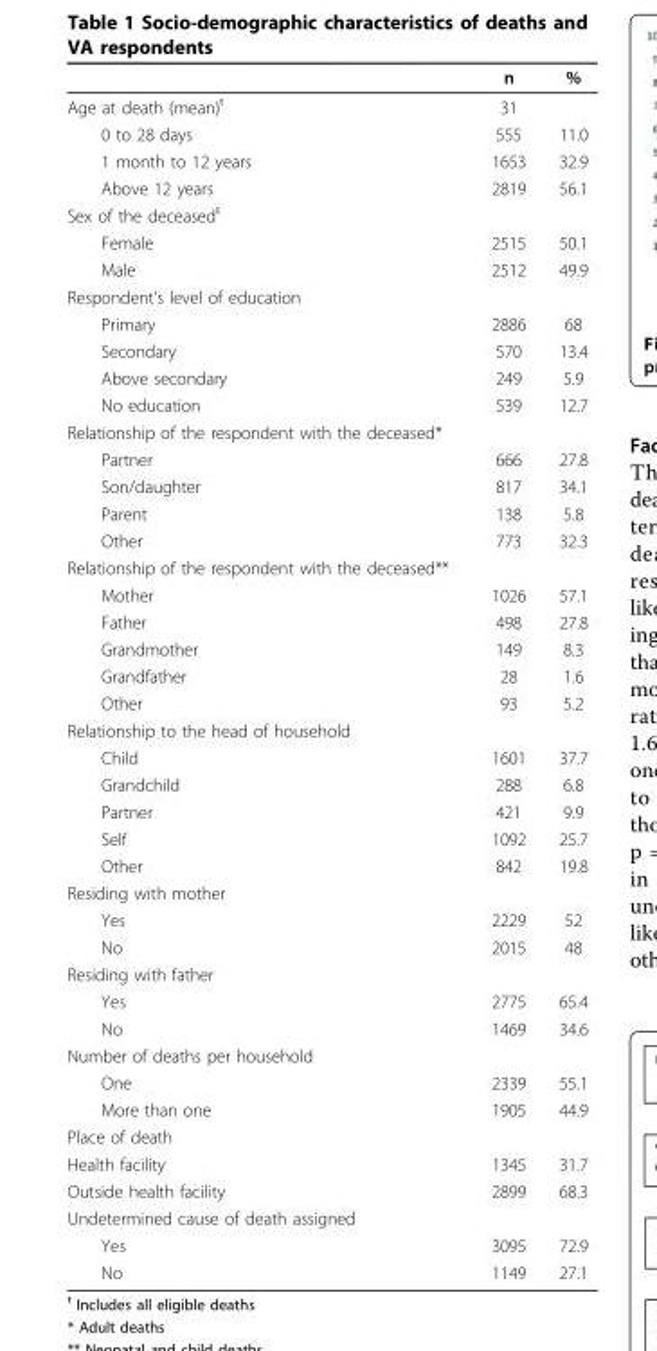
<table><thead><tr><td></td><td>n</td><td>%</td></tr></thead><tbody><tr><td>Age at death (mean)<sup>ŧ</sup></td><td>31</td><td></td></tr><tr><td>0 to 28 days</td><td>555</td><td>11.0</td></tr><tr><td>1 month to 12 years</td><td>1653</td><td>32.9</td></tr><tr><td>Above 12 years</td><td>2819</td><td>56.1</td></tr><tr><td colspan="3">Sex of the deceased<sup>ŧ</sup></td></tr><tr><td>Female</td><td>2515</td><td>50.1</td></tr><tr><td>Male</td><td>2512</td><td>49.9</td></tr><tr><td colspan="3">Respondent’s level of education</td></tr><tr><td>Primary</td><td>2886</td><td>68</td></tr><tr><td>Secondary</td><td>570</td><td>13.4</td></tr><tr><td>Above secondary</td><td>249</td><td>5.9</td></tr><tr><td>No education</td><td>539</td><td>12.7</td></tr><tr><td colspan="3">Relationship of the respondent with the deceased*</td></tr><tr><td>Partner</td><td>666</td><td>27.8</td></tr><tr><td>Son/daughter</td><td>817</td><td>34.1</td></tr><tr><td>Parent</td><td>138</td><td>5.8</td></tr><tr><td>Other</td><td>773</td><td>32.3</td></tr><tr><td colspan="3">Relationship of the respondent with the deceased**</td></tr><tr><td>Mother</td><td>1026</td><td>57.1</td></tr><tr><td>Father</td><td>498</td><td>27.8</td></tr><tr><td>Grandmother</td><td>149</td><td>8.3</td></tr><tr><td>Grandfather</td><td>28</td><td>1.6</td></tr><tr><td>Other</td><td>93</td><td>5.2</td></tr><tr><td colspan="3">Relationship to the head of household</td></tr><tr><td>Child</td><td>1601</td><td>37.7</td></tr><tr><td>Grandchild</td><td>288</td><td>6.8</td></tr><tr><td>Partner</td><td>421</td><td>9.9</td></tr><tr><td>Self</td><td>1092</td><td>25.7</td></tr><tr><td>Other</td><td>842</td><td>19.8</td></tr><tr><td colspan="3">Residing with mother</td></tr><tr><td>Yes</td><td>2229</td><td>52</td></tr><tr><td>No</td><td>2015</td><td>48</td></tr><tr><td colspan="3">Residing with father</td></tr><tr><td>Yes</td><td>2775</td><td>65.4</td></tr><tr><td>No</td><td>1469</td><td>34.6</td></tr><tr><td colspan="3">Number of deaths per household</td></tr><tr><td>One</td><td>2339</td><td>55.1</td></tr><tr><td>More than one</td><td>1905</td><td>44.9</td></tr><tr><td colspan="3">Place of death</td></tr><tr><td>Health facility</td><td>1345</td><td>31.7</td></tr><tr><td>Outside health facility</td><td>2899</td><td>68.3</td></tr><tr><td colspan="3">Undetermined cause of death assigned</td></tr><tr><td>Yes</td><td>3095</td><td>72.9</td></tr><tr><td>No</td><td>1149</td><td>27.1</td></tr></tbody></table>